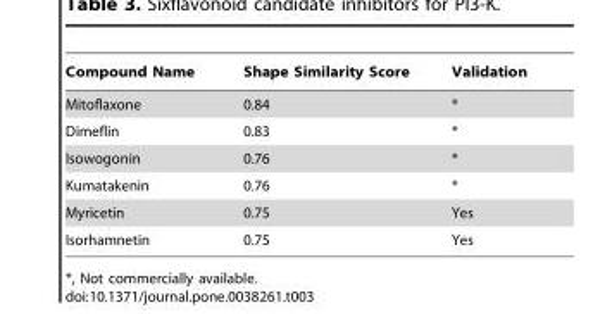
<table><thead><tr><td>Compound Name</td><td>Shape Similarity Score</td><td>Validation</td></tr></thead><tbody><tr><td>Mitoflaxone</td><td>0.84</td><td>*</td></tr><tr><td>Dimeflin</td><td>0.83</td><td>*</td></tr><tr><td>Isowogonin</td><td>0.76</td><td>*</td></tr><tr><td>Kumatakenin</td><td>0.76</td><td>*</td></tr><tr><td>Myricetin</td><td>0.75</td><td>Yes</td></tr><tr><td>Isorhamnetin</td><td>0.75</td><td>Yes</td></tr></tbody></table>